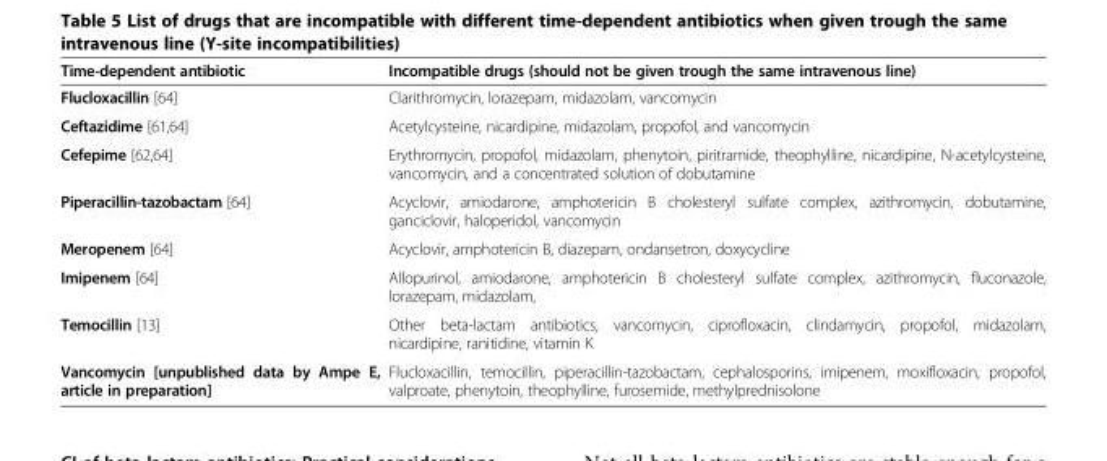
<table><thead><tr><td>Time-dependent antibiotic</td><td>Incompatible drugs (should not be given trough the same intravenous line)</td></tr></thead><tbody><tr><td>Flucloxacillin [64]</td><td>Clarithromycin, lorazepam, midazolam, vancomycin</td></tr><tr><td>Ceftazidime [61,64]</td><td>Acetylcysteine, nicardipine, midazolam, propofol, and vancomycin</td></tr><tr><td>Cefepime [62,64]</td><td>Erythromycin, propofol, midazolam, phenytoin, piritramide, theophylline, nicardipine, N-acetylcysteine, vancomycin, and a concentrated solution of dobutamine</td></tr><tr><td>Piperacillin-tazobactam [64]</td><td>Acyclovir, amiodarone, amphotericin B cholesteryl sulfate complex, azithromycin, dobutamine, ganciclovir, haloperidol, vancomycin</td></tr><tr><td>Meropenem [64]</td><td>Acyclovir, amphotericin B, diazepam, ondansetron, doxycycline</td></tr><tr><td>Imipenem [64]</td><td>Allopurinol, amiodarone, amphotericin B cholesteryl sulfate complex, azithromycin, fluconazole, lorazepam, midazolam,</td></tr><tr><td>Temocillin [13]</td><td>Other beta-lactam antibiotics, vancomycin, ciprofloxacin, clindamycin, propofol, midazolam, nicardipine, ranitidine, vitamin K</td></tr><tr><td>Vancomycin [unpublished data by Ampe E, article in preparation]</td><td>Flucloxacillin, temocillin, piperacillin-tazobactam, cephalosporins, imipenem, moxifloxacin, propofol, valproate, phenytoin, theophylline, furosemide, methylprednisolone</td></tr></tbody></table>